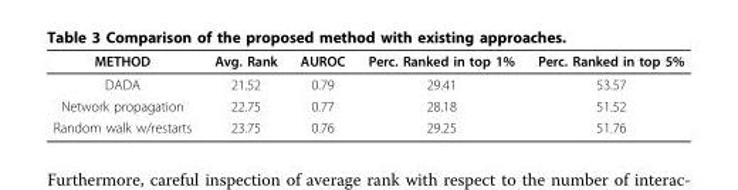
<table><thead><tr><td>METHOD</td><td>Avg. Rank</td><td>AUROC</td><td>Perc. Ranked in top 1%</td><td>Perc. Ranked in top 5%</td></tr></thead><tbody><tr><td>DADA</td><td>21.52</td><td>0.79</td><td>29.41</td><td>53.57</td></tr><tr><td>Network propagation</td><td>22.75</td><td>0.77</td><td>28.18</td><td>51.52</td></tr><tr><td>Random walk w/restarts</td><td>23.75</td><td>0.76</td><td>29.25</td><td>51.76</td></tr></tbody></table>